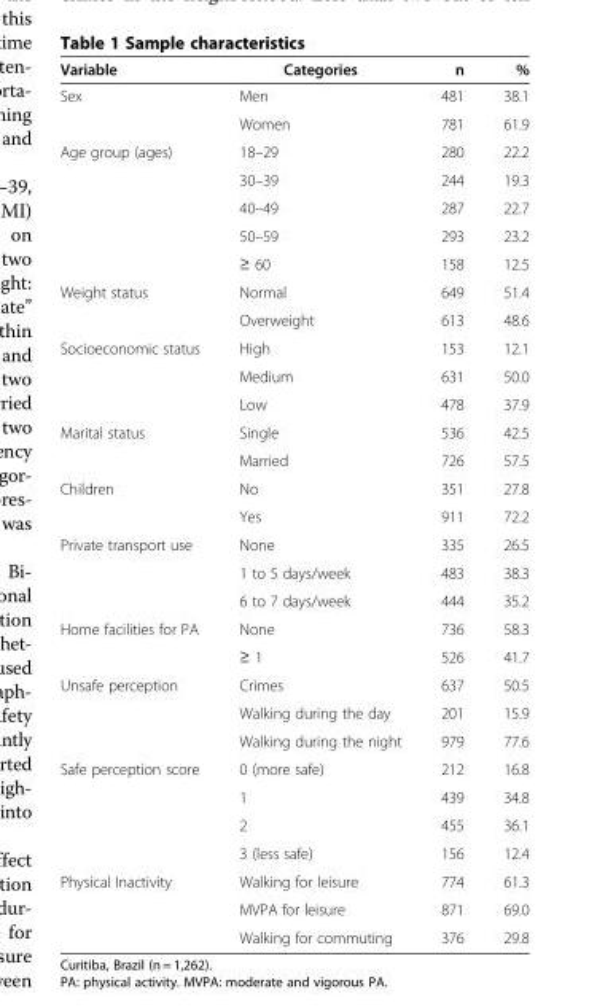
<table><thead><tr><td>Variable</td><td>Categories</td><td>n</td><td>%</td></tr></thead><tbody><tr><td rowspan="2">Sex</td><td>Men</td><td>481</td><td>38.1</td></tr><tr><td>Women</td><td>781</td><td>61.9</td></tr><tr><td rowspan="5">Age group (ages)</td><td>18–29</td><td>280</td><td>22.2</td></tr><tr><td>30–39</td><td>244</td><td>19.3</td></tr><tr><td>40–49</td><td>287</td><td>22.7</td></tr><tr><td>50–59</td><td>293</td><td>23.2</td></tr><tr><td>≥ 60</td><td>158</td><td>12.5</td></tr><tr><td rowspan="2">Weight status</td><td>Normal</td><td>649</td><td>51.4</td></tr><tr><td>Overweight</td><td>613</td><td>48.6</td></tr><tr><td rowspan="3">Socioeconomic status</td><td>High</td><td>153</td><td>12.1</td></tr><tr><td>Medium</td><td>631</td><td>50.0</td></tr><tr><td>Low</td><td>478</td><td>37.9</td></tr><tr><td rowspan="2">Marital status</td><td>Single</td><td>536</td><td>42.5</td></tr><tr><td>Married</td><td>726</td><td>57.5</td></tr><tr><td rowspan="2">Children</td><td>No</td><td>351</td><td>27.8</td></tr><tr><td>Yes</td><td>911</td><td>72.2</td></tr><tr><td rowspan="3">Private transport use</td><td>None</td><td>335</td><td>26.5</td></tr><tr><td>1 to 5 days/week</td><td>483</td><td>38.3</td></tr><tr><td>6 to 7 days/week</td><td>444</td><td>35.2</td></tr><tr><td rowspan="2">Home facilities for PA</td><td>None</td><td>736</td><td>58.3</td></tr><tr><td>≥ 1</td><td>526</td><td>41.7</td></tr><tr><td rowspan="3">Unsafe perception</td><td>Crimes</td><td>637</td><td>50.5</td></tr><tr><td>Walking during the day</td><td>201</td><td>15.9</td></tr><tr><td>Walking during the night</td><td>979</td><td>77.6</td></tr><tr><td rowspan="4">Safe perception score</td><td>0 (more safe)</td><td>212</td><td>16.8</td></tr><tr><td>1</td><td>439</td><td>34.8</td></tr><tr><td>2</td><td>455</td><td>36.1</td></tr><tr><td>3 (less safe)</td><td>156</td><td>12.4</td></tr><tr><td rowspan="3">Physical Inactivity</td><td>Walking for leisure</td><td>774</td><td>61.3</td></tr><tr><td>MVPA for leisure</td><td>871</td><td>69.0</td></tr><tr><td>Walking for commuting</td><td>376</td><td>29.8</td></tr></tbody></table>